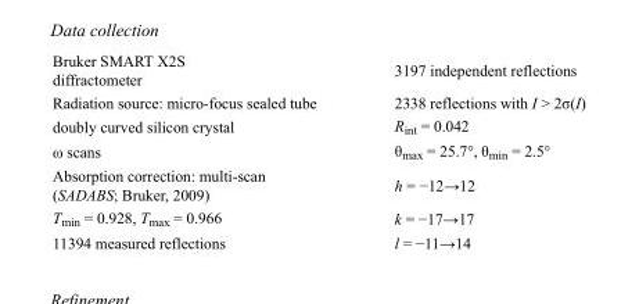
<table><tbody><tr><td>Bruker SMART X2S diffractometer</td><td>3197 independent reflections</td></tr><tr><td>Radiation source: micro-focus sealed tube</td><td>2338 reflections with I &gt; 2σ(I)</td></tr><tr><td>doubly curved silicon crystal</td><td>R<sub>int</sub> = 0.042</td></tr><tr><td>ω scans</td><td>θ<sub>max</sub> = 25.7°, θ<sub>min</sub> = 2.5°</td></tr><tr><td>Absorption correction: multi-scan (SADABS; Bruker, 2009)</td><td>h = −12→12</td></tr><tr><td>T<sub>min</sub> = 0.928, T<sub>max</sub> = 0.966</td><td>k = −17→17</td></tr><tr><td>11394 measured reflections</td><td>l = −11→14</td></tr></tbody></table>